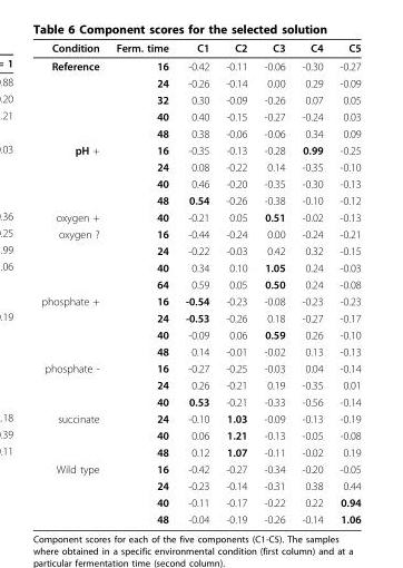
<table><thead><tr><td>Condition</td><td>Ferm. time</td><td>C1</td><td>C2</td><td>C3</td><td>C4</td><td>C5</td></tr></thead><tbody><tr><td rowspan="5">Reference</td><td>16</td><td>-0.42</td><td>-0.11</td><td>-0.06</td><td>-0.30</td><td>-0.27</td></tr><tr><td>24</td><td>-0.26</td><td>-0.14</td><td>0.00</td><td>0.29</td><td>-0.09</td></tr><tr><td>32</td><td>0.30</td><td>-0.09</td><td>-0.26</td><td>0.07</td><td>0.05</td></tr><tr><td>40</td><td>0.40</td><td>-0.15</td><td>-0.27</td><td>-0.24</td><td>0.03</td></tr><tr><td>48</td><td>0.38</td><td>-0.06</td><td>-0.06</td><td>0.34</td><td>0.09</td></tr><tr><td rowspan="4">pH +</td><td>16</td><td>-0.35</td><td>-0.13</td><td>-0.28</td><td>0.99</td><td>-0.25</td></tr><tr><td>24</td><td>0.08</td><td>-0.22</td><td>0.14</td><td>-0.35</td><td>-0.10</td></tr><tr><td>40</td><td>0.46</td><td>-0.20</td><td>-0.35</td><td>-0.30</td><td>-0.13</td></tr><tr><td>48</td><td>0.54</td><td>-0.26</td><td>-0.38</td><td>-0.10</td><td>-0.12</td></tr><tr><td>oxygen +</td><td>40</td><td>-0.21</td><td>0.05</td><td>0.51</td><td>-0.02</td><td>-0.13</td></tr><tr><td rowspan="4">oxygen ?</td><td>16</td><td>-0.44</td><td>-0.24</td><td>0.00</td><td>-0.24</td><td>-0.21</td></tr><tr><td>24</td><td>-0.22</td><td>-0.03</td><td>0.42</td><td>0.32</td><td>-0.15</td></tr><tr><td>40</td><td>0.34</td><td>0.10</td><td>1.05</td><td>0.24</td><td>-0.03</td></tr><tr><td>64</td><td>0.59</td><td>0.05</td><td>0.50</td><td>0.24</td><td>-0.08</td></tr><tr><td rowspan="4">phosphate +</td><td>16</td><td>-0.54</td><td>-0.23</td><td>-0.08</td><td>-0.23</td><td>-0.23</td></tr><tr><td>24</td><td>-0.53</td><td>-0.26</td><td>0.18</td><td>-0.27</td><td>-0.17</td></tr><tr><td>40</td><td>-0.09</td><td>0.06</td><td>0.59</td><td>0.26</td><td>-0.10</td></tr><tr><td>48</td><td>0.14</td><td>-0.01</td><td>-0.02</td><td>0.13</td><td>-0.13</td></tr><tr><td rowspan="3">phosphate -</td><td>16</td><td>-0.27</td><td>-0.25</td><td>-0.03</td><td>0.04</td><td>-0.14</td></tr><tr><td>24</td><td>0.26</td><td>-0.21</td><td>0.19</td><td>-0.35</td><td>0.01</td></tr><tr><td>40</td><td>0.53</td><td>-0.21</td><td>-0.33</td><td>-0.56</td><td>-0.14</td></tr><tr><td rowspan="3">succinate</td><td>24</td><td>-0.10</td><td>1.03</td><td>-0.09</td><td>-0.13</td><td>-0.19</td></tr><tr><td>40</td><td>0.06</td><td>1.21</td><td>-0.13</td><td>-0.05</td><td>-0.08</td></tr><tr><td>48</td><td>0.12</td><td>1.07</td><td>-0.11</td><td>-0.02</td><td>0.19</td></tr><tr><td rowspan="4">Wild type</td><td>16</td><td>-0.42</td><td>-0.27</td><td>-0.34</td><td>-0.20</td><td>-0.05</td></tr><tr><td>24</td><td>-0.23</td><td>-0.14</td><td>-0.31</td><td>0.38</td><td>0.44</td></tr><tr><td>40</td><td>-0.11</td><td>-0.17</td><td>-0.22</td><td>0.22</td><td>0.94</td></tr><tr><td>48</td><td>-0.04</td><td>-0.19</td><td>-0.26</td><td>-0.14</td><td>1.06</td></tr></tbody></table>